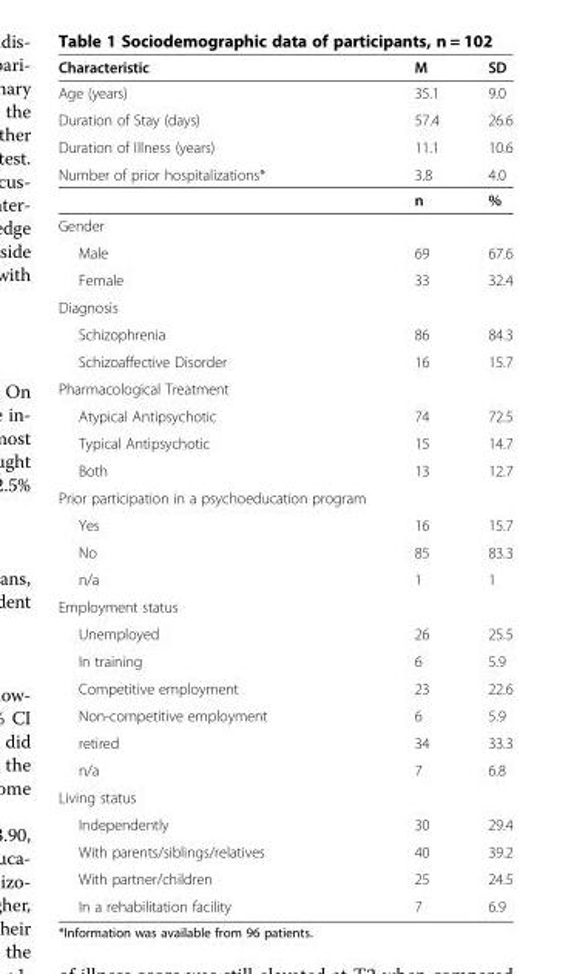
<table><thead><tr><td>Characteristic</td><td>M</td><td>SD</td></tr></thead><tbody><tr><td>Age (years)</td><td>35.1</td><td>9.0</td></tr><tr><td>Duration of Stay (days)</td><td>57.4</td><td>26.6</td></tr><tr><td>Duration of Illness (years)</td><td>11.1</td><td>10.6</td></tr><tr><td rowspan="2">Number of prior hospitalizations*</td><td>3.8</td><td>4.0</td></tr><tr><td>n</td><td>%</td></tr><tr><td colspan="3">Gender</td></tr><tr><td>Male</td><td>69</td><td>67.6</td></tr><tr><td>Female</td><td>33</td><td>32.4</td></tr><tr><td colspan="3">Diagnosis</td></tr><tr><td>Schizophrenia</td><td>86</td><td>84.3</td></tr><tr><td>Schizoaffective Disorder</td><td>16</td><td>15.7</td></tr><tr><td colspan="3">Pharmacological Treatment</td></tr><tr><td>Atypical Antipsychotic</td><td>74</td><td>72.5</td></tr><tr><td>Typical Antipsychotic</td><td>15</td><td>14.7</td></tr><tr><td>Both</td><td>13</td><td>12.7</td></tr><tr><td colspan="3">Prior participation in a psychoeducation program</td></tr><tr><td>Yes</td><td>16</td><td>15.7</td></tr><tr><td>No</td><td>85</td><td>83.3</td></tr><tr><td>n/a</td><td>1</td><td>1</td></tr><tr><td colspan="3">Employment status</td></tr><tr><td>Unemployed</td><td>26</td><td>25.5</td></tr><tr><td>In training</td><td>6</td><td>5.9</td></tr><tr><td>Competitive employment</td><td>23</td><td>22.6</td></tr><tr><td>Non-competitive employment</td><td>6</td><td>5.9</td></tr><tr><td>retired</td><td>34</td><td>33.3</td></tr><tr><td>n/a</td><td>7</td><td>6.8</td></tr><tr><td colspan="3">Living status</td></tr><tr><td>Independently</td><td>30</td><td>29.4</td></tr><tr><td>With parents/siblings/relatives</td><td>40</td><td>39.2</td></tr><tr><td>With partner/children</td><td>25</td><td>24.5</td></tr><tr><td>In a rehabilitation facility</td><td>7</td><td>6.9</td></tr></tbody></table>